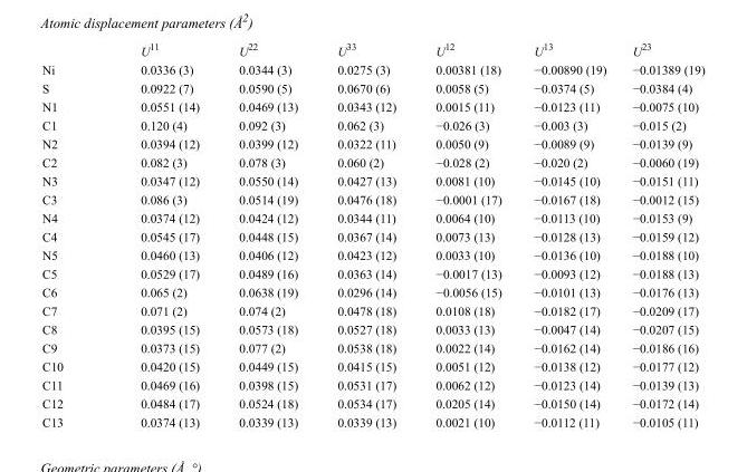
<table><thead><tr><td></td><td>U<sup>11</sup></td><td>U<sup>22</sup></td><td>U<sup>33</sup></td><td>U<sup>12</sup></td><td>U<sup>13</sup></td><td>U<sup>23</sup></td></tr></thead><tbody><tr><td>Ni</td><td>0.0336 (3)</td><td>0.0344 (3)</td><td>0.0275 (3)</td><td>0.00381 (18)</td><td>−0.00890 (19)</td><td>−0.01389 (19)</td></tr><tr><td>S</td><td>0.0922 (7)</td><td>0.0590 (5)</td><td>0.0670 (6)</td><td>0.0058 (5)</td><td>−0.0374 (5)</td><td>−0.0384 (4)</td></tr><tr><td>N1</td><td>0.0551 (14)</td><td>0.0469 (13)</td><td>0.0343 (12)</td><td>0.0015 (11)</td><td>−0.0123 (11)</td><td>−0.0075 (10)</td></tr><tr><td>C1</td><td>0.120 (4)</td><td>0.092 (3)</td><td>0.062 (3)</td><td>−0.026 (3)</td><td>−0.003 (3)</td><td>−0.015 (2)</td></tr><tr><td>N2</td><td>0.0394 (12)</td><td>0.0399 (12)</td><td>0.0322 (11)</td><td>0.0050 (9)</td><td>−0.0089 (9)</td><td>−0.0139 (9)</td></tr><tr><td>C2</td><td>0.082 (3)</td><td>0.078 (3)</td><td>0.060 (2)</td><td>−0.028 (2)</td><td>−0.020 (2)</td><td>−0.0060 (19)</td></tr><tr><td>N3</td><td>0.0347 (12)</td><td>0.0550 (14)</td><td>0.0427 (13)</td><td>0.0081 (10)</td><td>−0.0145 (10)</td><td>−0.0151 (11)</td></tr><tr><td>C3</td><td>0.086 (3)</td><td>0.0514 (19)</td><td>0.0476 (18)</td><td>−0.0001 (17)</td><td>−0.0167 (18)</td><td>−0.0012 (15)</td></tr><tr><td>N4</td><td>0.0374 (12)</td><td>0.0424 (12)</td><td>0.0344 (11)</td><td>0.0064 (10)</td><td>−0.0113 (10)</td><td>−0.0153 (9)</td></tr><tr><td>C4</td><td>0.0545 (17)</td><td>0.0448 (15)</td><td>0.0367 (14)</td><td>0.0073 (13)</td><td>−0.0128 (13)</td><td>−0.0159 (12)</td></tr><tr><td>N5</td><td>0.0460 (13)</td><td>0.0406 (12)</td><td>0.0423 (12)</td><td>0.0033 (10)</td><td>−0.0136 (10)</td><td>−0.0188 (10)</td></tr><tr><td>C5</td><td>0.0529 (17)</td><td>0.0489 (16)</td><td>0.0363 (14)</td><td>−0.0017 (13)</td><td>−0.0093 (12)</td><td>−0.0188 (13)</td></tr><tr><td>C6</td><td>0.065 (2)</td><td>0.0638 (19)</td><td>0.0296 (14)</td><td>−0.0056 (15)</td><td>−0.0101 (13)</td><td>−0.0176 (13)</td></tr><tr><td>C7</td><td>0.071 (2)</td><td>0.074 (2)</td><td>0.0478 (18)</td><td>0.0108 (18)</td><td>−0.0182 (17)</td><td>−0.0209 (17)</td></tr><tr><td>C8</td><td>0.0395 (15)</td><td>0.0573 (18)</td><td>0.0527 (18)</td><td>0.0033 (13)</td><td>−0.0047 (14)</td><td>−0.0207 (15)</td></tr><tr><td>C9</td><td>0.0373 (15)</td><td>0.077 (2)</td><td>0.0538 (18)</td><td>0.0022 (14)</td><td>−0.0162 (14)</td><td>−0.0186 (16)</td></tr><tr><td>C10</td><td>0.0420 (15)</td><td>0.0449 (15)</td><td>0.0415 (15)</td><td>0.0051 (12)</td><td>−0.0138 (12)</td><td>−0.0177 (12)</td></tr><tr><td>C11</td><td>0.0469 (16)</td><td>0.0398 (15)</td><td>0.0531 (17)</td><td>0.0062 (12)</td><td>−0.0123 (14)</td><td>−0.0139 (13)</td></tr><tr><td>C12</td><td>0.0484 (17)</td><td>0.0524 (18)</td><td>0.0534 (17)</td><td>0.0205 (14)</td><td>−0.0150 (14)</td><td>−0.0172 (14)</td></tr><tr><td>C13</td><td>0.0374 (13)</td><td>0.0339 (13)</td><td>0.0339 (13)</td><td>0.0021 (10)</td><td>−0.0112 (11)</td><td>−0.0105 (11)</td></tr></tbody></table>